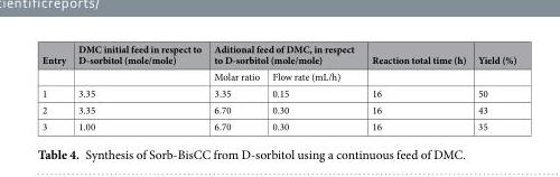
<table><thead><tr><td rowspan="2">Entry</td><td rowspan="2">DMC initial feed in respect to D-sorbitol (mole/mole)</td><td colspan="2">Aditional feed of DMC, in respect to D-sorbitol (mole/mole)</td><td rowspan="2">Reaction total time (h)</td><td rowspan="2">Yield (%)</td></tr><tr><td>Molar ratio</td><td>Flow rate (mL/h)</td></tr></thead><tbody><tr><td>1</td><td>3.35</td><td>3.35</td><td>0.15</td><td>16</td><td>50</td></tr><tr><td>2</td><td>3.35</td><td>6.70</td><td>0.30</td><td>16</td><td>43</td></tr><tr><td>3</td><td>1.00</td><td>6.70</td><td>0.30</td><td>16</td><td>35</td></tr></tbody></table>